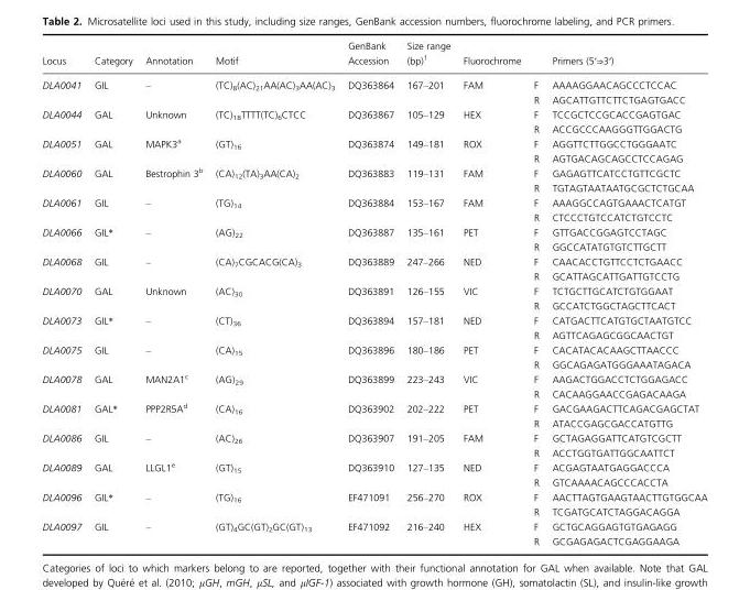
<table><thead><tr><td>Locus</td><td>Category</td><td>Annotation</td><td>Motif</td><td>GenBank Accession</td><td>Size range (bp)<sup>1</sup></td><td>Fluorochrome</td><td></td><td>Primers (5′⇒3′)</td></tr></thead><tbody><tr><td rowspan="2">DLA0041</td><td>GIL</td><td>–</td><td>(TC)<sub>8</sub>(AC)<sub>21</sub>AA(AC)<sub>3</sub>AA(AC)<sub>3</sub></td><td>DQ363864</td><td>167–201</td><td>FAM</td><td>F</td><td>AAAAGGAACAGCCCTCCAC</td></tr><tr><td></td><td></td><td></td><td></td><td></td><td></td><td>R</td><td>AGCATTGTTCTTCTGAGTGACC</td></tr><tr><td rowspan="2">DLA0044</td><td>GAL</td><td>Unknown</td><td>(TC)<sub>18</sub>TTTT(TC)<sub>6</sub>CTCC</td><td>DQ363867</td><td>105–129</td><td>HEX</td><td>F</td><td>TCCGCTCCGCACCGAGTGAC</td></tr><tr><td></td><td></td><td></td><td></td><td></td><td></td><td>R</td><td>ACCGCCCAAGGGTTGGACTG</td></tr><tr><td rowspan="2">DLA0051</td><td>GAL</td><td>MAPK3<sup>a</sup></td><td>(GT)<sub>16</sub></td><td>DQ363874</td><td>149–181</td><td>ROX</td><td>F</td><td>AGGTTCTTGGCCTGGGAATC</td></tr><tr><td></td><td></td><td></td><td></td><td></td><td></td><td>R</td><td>AGTGACAGCAGCCTCCAGAG</td></tr><tr><td rowspan="2">DLA0060</td><td>GAL</td><td>Bestrophin 3<sup>b</sup></td><td>(CA)<sub>12</sub>(TA)<sub>3</sub>AA(CA)<sub>2</sub></td><td>DQ363883</td><td>119–131</td><td>FAM</td><td>F</td><td>GAGAGTTCATCCTGTTCGCTC</td></tr><tr><td></td><td></td><td></td><td></td><td></td><td></td><td>R</td><td>TGTAGTAATAATGCGCTCTGCAA</td></tr><tr><td rowspan="2">DLA0061</td><td>GIL</td><td>–</td><td>(TG)<sub>14</sub></td><td>DQ363884</td><td>153–167</td><td>FAM</td><td>F</td><td>AAAGGCCAGTGAAACTCATGT</td></tr><tr><td></td><td></td><td></td><td></td><td></td><td></td><td>R</td><td>CTCCCTGTCCATCTGTCCTC</td></tr><tr><td rowspan="2">DLA0066</td><td>GIL*</td><td>–</td><td>(AG)<sub>22</sub></td><td>DQ363887</td><td>135–161</td><td>PET</td><td>F</td><td>GTTGACCGGAGTCCTAGC</td></tr><tr><td></td><td></td><td></td><td></td><td></td><td></td><td>R</td><td>GGCCATATGTGTCTTGCTT</td></tr><tr><td rowspan="2">DLA0068</td><td>GIL</td><td>–</td><td>(CA)<sub>7</sub>CGCACG(CA)<sub>3</sub></td><td>DQ363889</td><td>247–266</td><td>NED</td><td>F</td><td>CAACACCTGTTCCTCTGAACC</td></tr><tr><td></td><td></td><td></td><td></td><td></td><td></td><td>R</td><td>GCATTAGCATTGATTGTCCTG</td></tr><tr><td rowspan="2">DLA0070</td><td>GAL</td><td>Unknown</td><td>(AC)<sub>30</sub></td><td>DQ363891</td><td>126–155</td><td>VIC</td><td>F</td><td>TCTGCTTGCATCTGTGGAAT</td></tr><tr><td></td><td></td><td></td><td></td><td></td><td></td><td>R</td><td>GCCATCTGGCTAGCTTCACT</td></tr><tr><td rowspan="2">DLA0073</td><td>GIL*</td><td>–</td><td>(CT)<sub>36</sub></td><td>DQ363894</td><td>157–181</td><td>NED</td><td>F</td><td>CATGACTTCATGTGCTAATGTCC</td></tr><tr><td></td><td></td><td></td><td></td><td></td><td></td><td>R</td><td>AGTTCAGAGCGGCAACTGT</td></tr><tr><td rowspan="2">DLA0075</td><td>GIL</td><td>–</td><td>(CA)<sub>15</sub></td><td>DQ363896</td><td>180–186</td><td>PET</td><td>F</td><td>CACATACACAAGCTTAACCC</td></tr><tr><td></td><td></td><td></td><td></td><td></td><td></td><td>R</td><td>GGCAGAGATGGGAAATAGACA</td></tr><tr><td rowspan="2">DLA0078</td><td>GAL</td><td>MAN2A1<sup>c</sup></td><td>(AG)<sub>29</sub></td><td>DQ363899</td><td>223–243</td><td>VIC</td><td>F</td><td>AAGACTGGACCTCTGGAGACC</td></tr><tr><td></td><td></td><td></td><td></td><td></td><td></td><td>R</td><td>CACAAGGAACCGAGACAAGA</td></tr><tr><td rowspan="2">DLA0081</td><td>GAL*</td><td>PPP2R5A<sup>d</sup></td><td>(CA)<sub>16</sub></td><td>DQ363902</td><td>202–222</td><td>PET</td><td>F</td><td>GACGAAGACTTCAGACGAGCTAT</td></tr><tr><td></td><td></td><td></td><td></td><td></td><td></td><td>R</td><td>ATACCGAGCGACCATGTTG</td></tr><tr><td rowspan="2">DLA0086</td><td>GIL</td><td>–</td><td>(AC)<sub>26</sub></td><td>DQ363907</td><td>191–205</td><td>FAM</td><td>F</td><td>GCTAGAGGATTCATGTCGCTT</td></tr><tr><td></td><td></td><td></td><td></td><td></td><td></td><td>R</td><td>ACCTGGTGATTGGCAATTCT</td></tr><tr><td rowspan="2">DLA0089</td><td>GAL</td><td>LLGL1<sup>e</sup></td><td>(GT)<sub>15</sub></td><td>DQ363910</td><td>127–135</td><td>NED</td><td>F</td><td>ACGAGTAATGAGGACCCA</td></tr><tr><td></td><td></td><td></td><td></td><td></td><td></td><td>R</td><td>GTCAAAACAGCCCACCTA</td></tr><tr><td rowspan="2">DLA0096</td><td>GIL*</td><td>–</td><td>(TG)<sub>16</sub></td><td>EF471091</td><td>256–270</td><td>ROX</td><td>F</td><td>AACTTAGTGAAGTAACTTGTGGCAA</td></tr><tr><td></td><td></td><td></td><td></td><td></td><td></td><td>R</td><td>TCGATGCATCTAGGACAGGA</td></tr><tr><td rowspan="2">DLA0097</td><td>GIL</td><td>–</td><td>(GT)<sub>4</sub>GC(GT)<sub>2</sub>GC(GT)<sub>13</sub></td><td>EF471092</td><td>216–240</td><td>HEX</td><td>F</td><td>GCTGCAGGAGTGTGAGAGG</td></tr><tr><td></td><td></td><td></td><td></td><td></td><td></td><td>R</td><td>GCGAGAGACTCGAGGAAGA</td></tr></tbody></table>